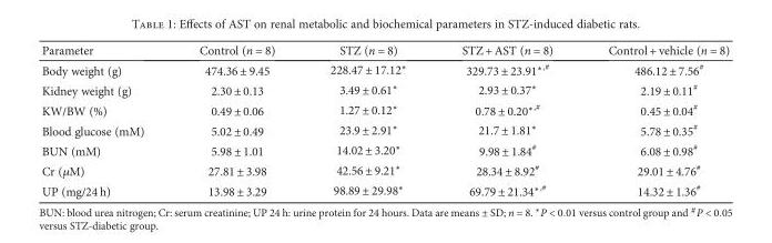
<table><thead><tr><td>Parameter</td><td>Control (n = 8)</td><td>STZ (n = 8)</td><td>STZ + AST (n = 8)</td><td>Control + vehicle (n = 8)</td></tr></thead><tbody><tr><td>Body weight (g)</td><td>474.36 ± 9.45</td><td>228.47 ± 17.12∗</td><td>329.73 ± 23.91<sup>∗,#</sup></td><td>486.12 ± 7.56<sup>#</sup></td></tr><tr><td>Kidney weight (g)</td><td>2.30 ± 0.13</td><td>3.49 ± 0.61∗</td><td>2.93 ± 0.37∗</td><td>2.19 ± 0.11<sup>#</sup></td></tr><tr><td>KW/BW (%)</td><td>0.49 ± 0.06</td><td>1.27 ± 0.12∗</td><td>0.78 ± 0.20<sup>∗,#</sup></td><td>0.45 ± 0.04<sup>#</sup></td></tr><tr><td>Blood glucose (mM)</td><td>5.02 ± 0.49</td><td>23.9 ± 2.91∗</td><td>21.7 ± 1.81∗</td><td>5.78 ± 0.35<sup>#</sup></td></tr><tr><td>BUN (mM)</td><td>5.98 ± 1.01</td><td>14.02 ± 3.20∗</td><td>9.98 ± 1.84<sup>#</sup></td><td>6.08 ± 0.98<sup>#</sup></td></tr><tr><td>Cr (μM)</td><td>27.81 ± 3.98</td><td>42.56 ± 9.21∗</td><td>28.34 ± 8.92<sup>#</sup></td><td>29.01 ± 4.76<sup>#</sup></td></tr><tr><td>UP (mg/24 h)</td><td>13.98 ± 3.29</td><td>98.89 ± 29.98∗</td><td>69.79 ± 21.34<sup>∗,#</sup></td><td>14.32 ± 1.36<sup>#</sup></td></tr></tbody></table>